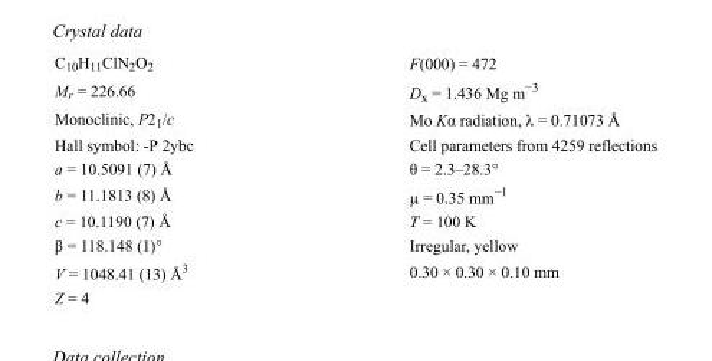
<table><tbody><tr><td>C<sub>10</sub>H<sub>11</sub>ClN<sub>2</sub>O<sub>2</sub></td><td>F(000) = 472</td></tr><tr><td>M<sub>r</sub> = 226.66</td><td>D<sub>x</sub> = 1.436 Mg m<sup>−3</sup></td></tr><tr><td>Monoclinic, P2<sub>1</sub>/c</td><td>Mo Kα radiation, λ = 0.71073 Å</td></tr><tr><td>Hall symbol: -P 2ybc</td><td>Cell parameters from 4259 reflections</td></tr><tr><td>a = 10.5091 (7) Å</td><td>θ = 2.3–28.3°</td></tr><tr><td>b = 11.1813 (8) Å</td><td>µ = 0.35 mm<sup>−1</sup></td></tr><tr><td>c = 10.1190 (7) Å</td><td>T = 100 K</td></tr><tr><td>β = 118.148 (1)°</td><td>Irregular, yellow</td></tr><tr><td>V = 1048.41 (13) Å<sup>3</sup></td><td>0.30 × 0.30 × 0.10 mm</td></tr><tr><td>Z = 4</td><td></td></tr></tbody></table>